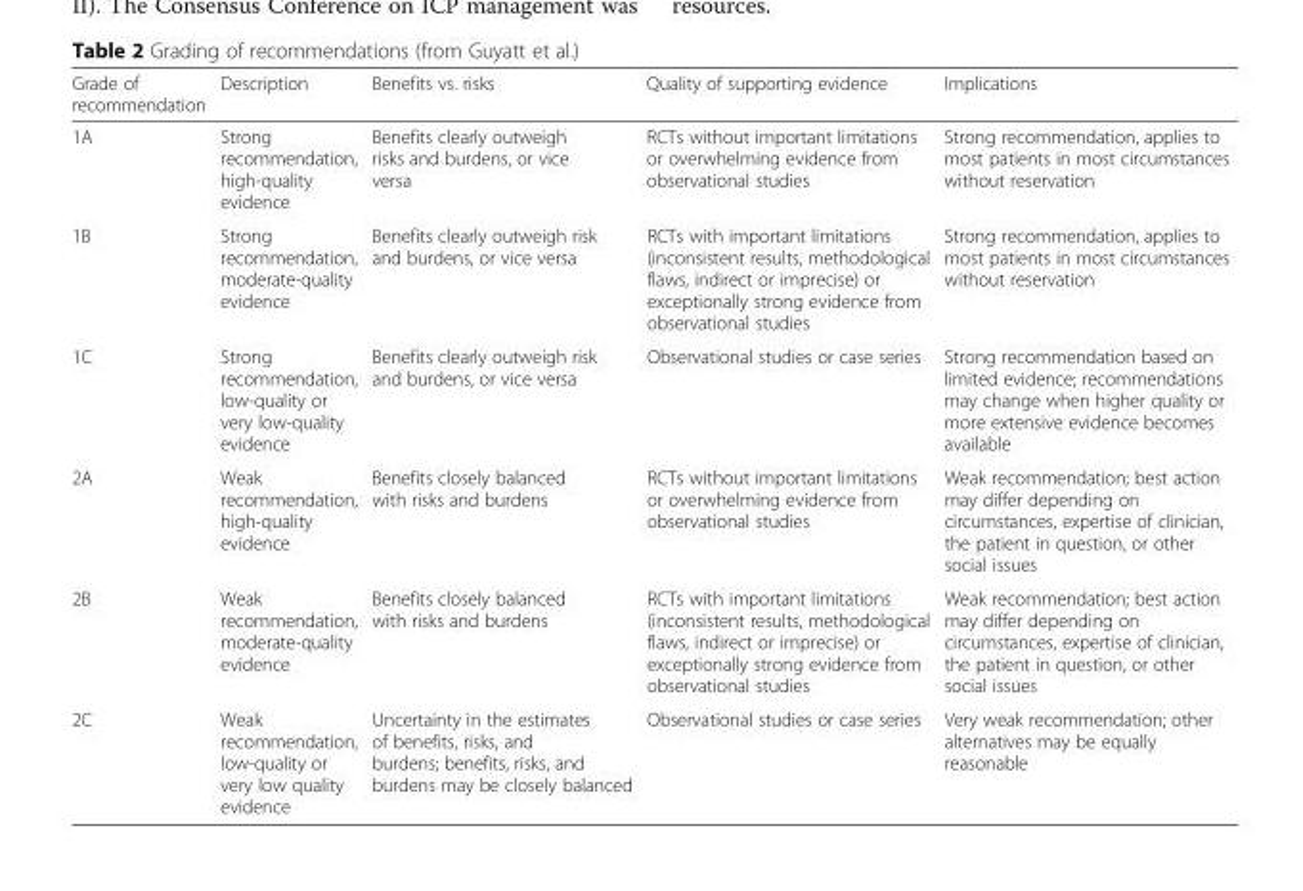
<table><thead><tr><td>Grade of recommendation</td><td>Description</td><td>Benefits vs. risks</td><td>Quality of supporting evidence</td><td>Implications</td></tr></thead><tbody><tr><td>1A</td><td>Strong recommendation, high-quality evidence</td><td>Benefits clearly outweigh risks and burdens, or vice versa</td><td>RCTs without important limitations or overwhelming evidence from observational studies</td><td>Strong recommendation, applies to most patients in most circumstances without reservation</td></tr><tr><td>1B</td><td>Strong recommendation, moderate-quality evidence</td><td>Benefits clearly outweigh risk and burdens, or vice versa</td><td>RCTs with important limitations (inconsistent results, methodological flaws, indirect or imprecise) or exceptionally strong evidence from observational studies</td><td>Strong recommendation, applies to most patients in most circumstances without reservation</td></tr><tr><td>1C</td><td>Strong recommendation, low-quality or very low-quality evidence</td><td>Benefits clearly outweigh risk and burdens, or vice versa</td><td>Observational studies or case series</td><td>Strong recommendation based on limited evidence; recommendations may change when higher quality or more extensive evidence becomes available</td></tr><tr><td>2A</td><td>Weak recommendation, high-quality evidence</td><td>Benefits closely balanced with risks and burdens</td><td>RCTs without important limitations or overwhelming evidence from observational studies</td><td>Weak recommendation; best action may differ depending on circumstances, expertise of clinician, the patient in question, or other social issues</td></tr><tr><td>2B</td><td>Weak recommendation, moderate-quality evidence</td><td>Benefits closely balanced with risks and burdens</td><td>RCTs with important limitations (inconsistent results, methodological flaws, indirect or imprecise) or exceptionally strong evidence from observational studies</td><td>Weak recommendation; best action may differ depending on circumstances, expertise of clinician, the patient in question, or other social issues</td></tr><tr><td>2C</td><td>Weak recommendation, low-quality or very low quality evidence</td><td>Uncertainty in the estimates of benefits, risks, and burdens; benefits, risks, and burdens may be closely balanced</td><td>Observational studies or case series</td><td>Very weak recommendation; other alternatives may be equally reasonable</td></tr></tbody></table>